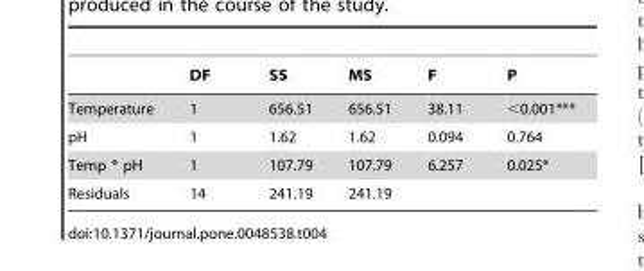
<table><thead><tr><td></td><td>DF</td><td>SS</td><td>MS</td><td>F</td><td>P</td></tr></thead><tbody><tr><td>Temperature</td><td>1</td><td>656.51</td><td>656.51</td><td>38.11</td><td>&lt;0.001***</td></tr><tr><td>pH</td><td>1</td><td>1.62</td><td>1.62</td><td>0.094</td><td>0.764</td></tr><tr><td>Temp * pH</td><td>1</td><td>107.79</td><td>107.79</td><td>6.257</td><td>0.025*</td></tr><tr><td>Residuals</td><td>14</td><td>241.19</td><td>241.19</td><td></td><td></td></tr></tbody></table>